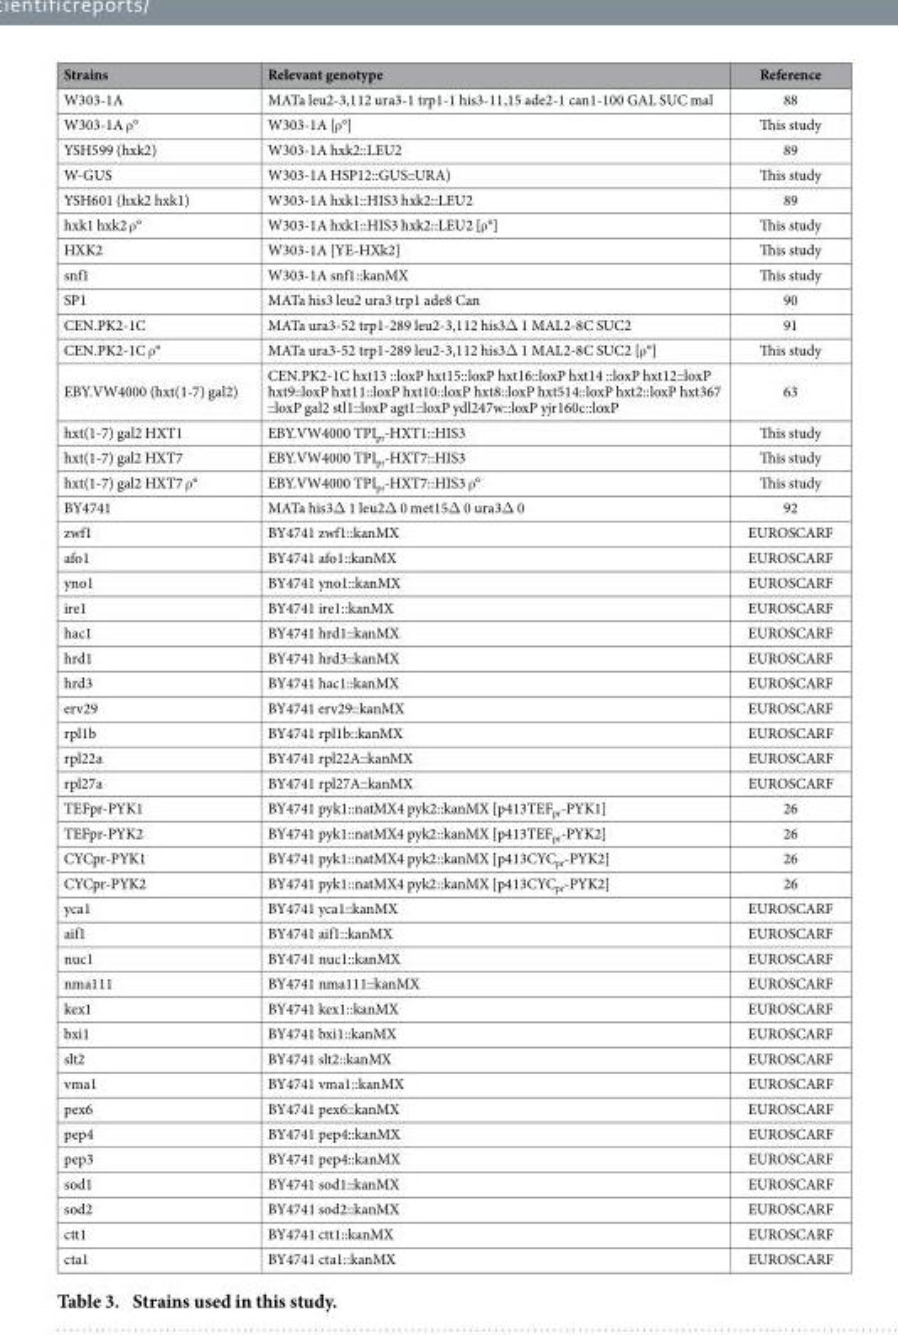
<table><thead><tr><td>Strains</td><td>Relevant genotype</td><td>Reference</td></tr></thead><tbody><tr><td>W303-1A</td><td>MATa leu2-3,112 ura3-1 trp1-1 his3-11,15 ade2-1 can1-100 GAL SUC mal</td><td>88</td></tr><tr><td>W303-1A ρ °</td><td>W303-1A [ρ °]</td><td>This study</td></tr><tr><td>YSH599 (hxk2)</td><td>W303-1A hxk2::LEU2</td><td>89</td></tr><tr><td>W-GUS</td><td>W303-1A HSP12::GUS::URA)</td><td>This study</td></tr><tr><td>YSH601 (hxk2 hxk1)</td><td>W303-1A hxk1::HIS3 hxk2::LEU2</td><td>89</td></tr><tr><td>hxk1 hxk2 ρ °</td><td>W303-1A hxk1::HIS3 hxk2::LEU2 [ρ °]</td><td>This study</td></tr><tr><td>HXK2</td><td>W303-1A [YE-HXk2]</td><td>This study</td></tr><tr><td>snf1</td><td>W303-1A snf1::kanMX</td><td>This study</td></tr><tr><td>SP1</td><td>MATa his3 leu2 ura3 trp1 ade8 Can</td><td>90</td></tr><tr><td>CEN.PK2-1C</td><td>MATa ura3-52 trp1-289 leu2-3,112 his3Δ 1 MAL2-8C SUC2</td><td>91</td></tr><tr><td>CEN.PK2-1C ρ °</td><td>MATa ura3-52 trp1-289 leu2-3,112 his3Δ 1 MAL2-8C SUC2 [ρ °]</td><td>This study</td></tr><tr><td>EBY.VW4000 (hxt(1-7) gal2)</td><td>CEN.PK2-1C hxt13 ::loxP hxt15::loxP hxt16::loxP hxt14 ::loxP hxt12::loxP hxt9::loxP hxt11::loxP hxt10::loxP hxt8::loxP hxt514::loxP hxt2::loxP hxt367 ::loxP gal2 stl1::loxP agt1::loxP ydl247w::loxP yjr160c::loxP</td><td>63</td></tr><tr><td>hxt(1-7) gal2 HXT1</td><td>EBY.VW4000 TPI<sub>pr</sub>-HXT1::HIS3</td><td>This study</td></tr><tr><td>hxt(1-7) gal2 HXT7</td><td>EBY.VW4000 TPI<sub>pr</sub>-HXT7::HIS3</td><td>This study</td></tr><tr><td>hxt(1-7) gal2 HXT7 ρ °</td><td>EBY.VW4000 TPI<sub>pr</sub>-HXT7::HIS3 ρ °</td><td>This study</td></tr><tr><td>BY4741</td><td>MATa his3Δ 1 leu2Δ 0 met15Δ 0 ura3Δ 0</td><td>92</td></tr><tr><td>zwf1</td><td>BY4741 zwf1::kanMX</td><td>EUROSCARF</td></tr><tr><td>afo1</td><td>BY4741 afo1::kanMX</td><td>EUROSCARF</td></tr><tr><td>yno1</td><td>BY4741 yno1::kanMX</td><td>EUROSCARF</td></tr><tr><td>ire1</td><td>BY4741 ire1::kanMX</td><td>EUROSCARF</td></tr><tr><td>hac1</td><td>BY4741 hrd1::kanMX</td><td>EUROSCARF</td></tr><tr><td>hrd1</td><td>BY4741 hrd3::kanMX</td><td>EUROSCARF</td></tr><tr><td>hrd3</td><td>BY4741 hac1::kanMX</td><td>EUROSCARF</td></tr><tr><td>erv29</td><td>BY4741 erv29::kanMX</td><td>EUROSCARF</td></tr><tr><td>rpl1b</td><td>BY4741 rpl1b::kanMX</td><td>EUROSCARF</td></tr><tr><td>rpl22a</td><td>BY4741 rpl22A::kanMX</td><td>EUROSCARF</td></tr><tr><td>rpl27a</td><td>BY4741 rpl27A::kanMX</td><td>EUROSCARF</td></tr><tr><td>TEFpr-PYK1</td><td>BY4741 pyk1::natMX4 pyk2::kanMX [p413TEF<sub>pr</sub>-PYK1]</td><td>26</td></tr><tr><td>TEFpr-PYK2</td><td>BY4741 pyk1::natMX4 pyk2::kanMX [p413TEF<sub>pr</sub>-PYK2]</td><td>26</td></tr><tr><td>CYCpr-PYK1</td><td>BY4741 pyk1::natMX4 pyk2::kanMX [p413CYC<sub>pr</sub>-PYK2]</td><td>26</td></tr><tr><td>CYCpr-PYK2</td><td>BY4741 pyk1::natMX4 pyk2::kanMX [p413CYC<sub>pr</sub>-PYK2]</td><td>26</td></tr><tr><td>yca1</td><td>BY4741 yca1::kanMX</td><td>EUROSCARF</td></tr><tr><td>aif1</td><td>BY4741 aif1::kanMX</td><td>EUROSCARF</td></tr><tr><td>nuc1</td><td>BY4741 nuc1::kanMX</td><td>EUROSCARF</td></tr><tr><td>nma111</td><td>BY4741 nma111::kanMX</td><td>EUROSCARF</td></tr><tr><td>kex1</td><td>BY4741 kex1::kanMX</td><td>EUROSCARF</td></tr><tr><td>bxi1</td><td>BY4741 bxi1::kanMX</td><td>EUROSCARF</td></tr><tr><td>slt2</td><td>BY4741 slt2::kanMX</td><td>EUROSCARF</td></tr><tr><td>vma1</td><td>BY4741 vma1::kanMX</td><td>EUROSCARF</td></tr><tr><td>pex6</td><td>BY4741 pex6::kanMX</td><td>EUROSCARF</td></tr><tr><td>pep4</td><td>BY4741 pep4::kanMX</td><td>EUROSCARF</td></tr><tr><td>pep3</td><td>BY4741 pep4::kanMX</td><td>EUROSCARF</td></tr><tr><td>sod1</td><td>BY4741 sod1::kanMX</td><td>EUROSCARF</td></tr><tr><td>sod2</td><td>BY4741 sod2::kanMX</td><td>EUROSCARF</td></tr><tr><td>ctt1</td><td>BY4741 ctt1::kanMX</td><td>EUROSCARF</td></tr><tr><td>cta1</td><td>BY4741 cta1::kanMX</td><td>EUROSCARF</td></tr></tbody></table>